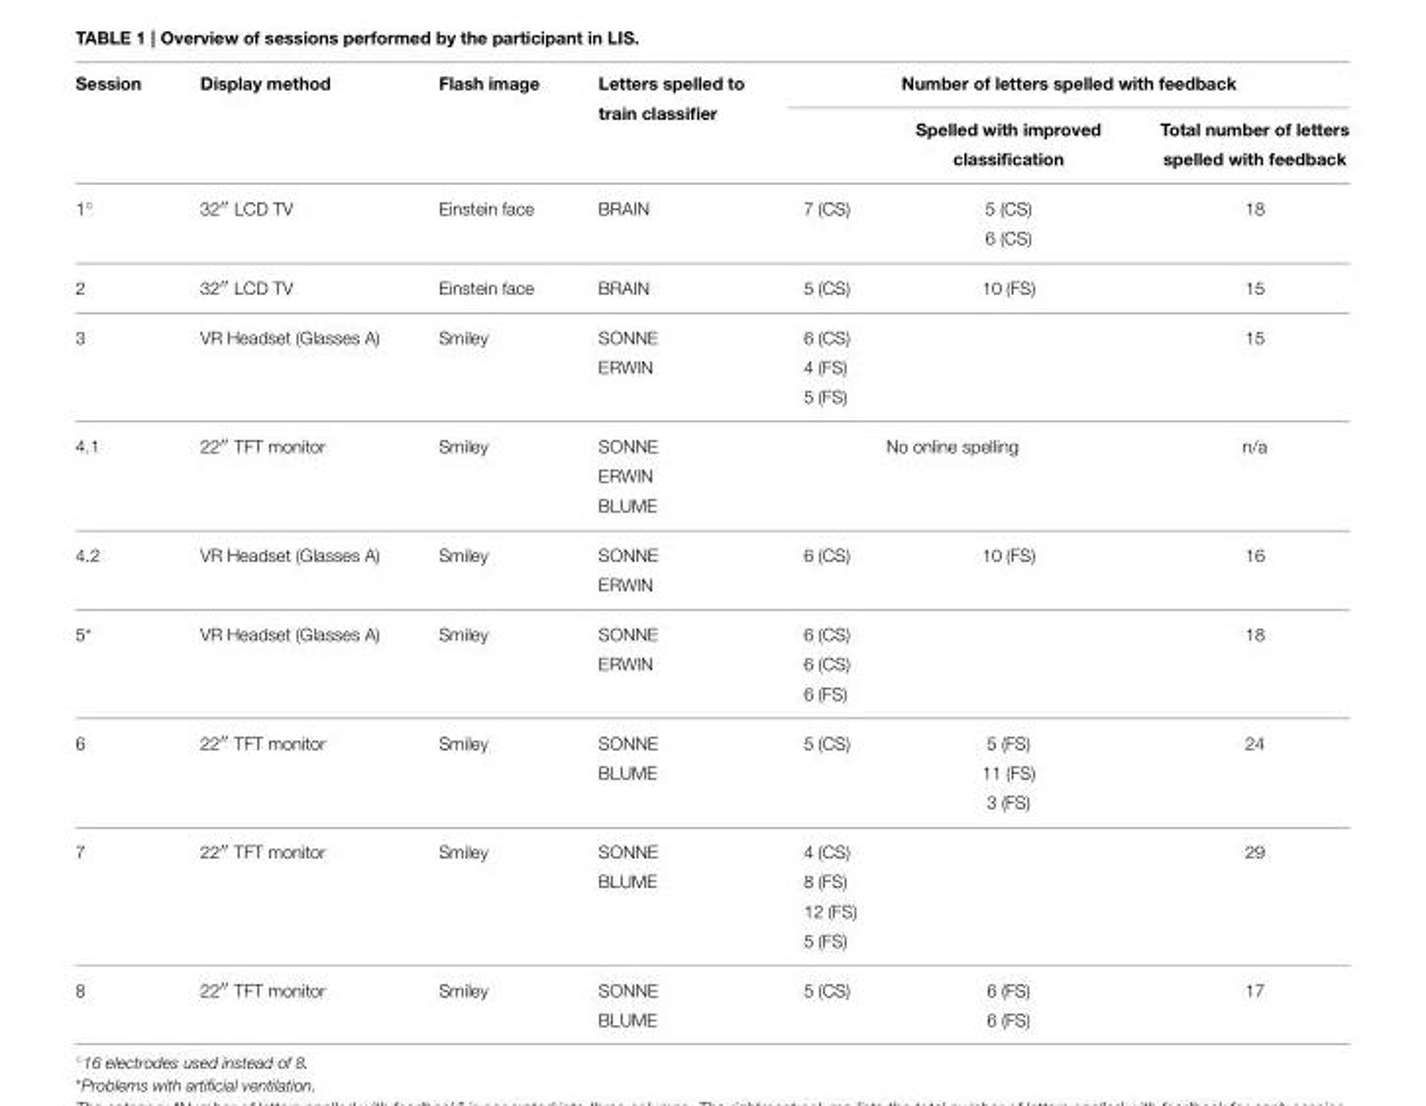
<table><thead><tr><td rowspan="2">Session</td><td rowspan="2">Display method</td><td rowspan="2">Flash image</td><td rowspan="2">Letters spelled to train classifier</td><td colspan="3">Number of letters spelled with feedback</td></tr><tr><td></td><td>Spelled with improved classification</td><td>Total number of letters spelled with feedback</td></tr></thead><tbody><tr><td rowspan="2">1<sup>◦</sup></td><td>32′′ LCD TV</td><td>Einstein face</td><td>BRAIN</td><td>7 (CS)</td><td>5 (CS)</td><td>18</td></tr><tr><td></td><td></td><td></td><td></td><td>6 (CS)</td><td></td></tr><tr><td>2</td><td>32′′ LCD TV</td><td>Einstein face</td><td>BRAIN</td><td>5 (CS)</td><td>10 (FS)</td><td>15</td></tr><tr><td rowspan="3">3</td><td>VR Headset (Glasses A)</td><td>Smiley</td><td>SONNE</td><td>6 (CS)</td><td></td><td>15</td></tr><tr><td></td><td></td><td>ERWIN</td><td>4 (FS)</td><td></td><td></td></tr><tr><td></td><td></td><td></td><td>5 (FS)</td><td></td><td></td></tr><tr><td rowspan="3">4.1</td><td>22′′ TFT monitor</td><td>Smiley</td><td>SONNE</td><td colspan="2">No online spelling</td><td>n/a</td></tr><tr><td></td><td></td><td>ERWIN</td><td></td><td></td><td></td></tr><tr><td></td><td></td><td>BLUME</td><td></td><td></td><td></td></tr><tr><td rowspan="2">4.2</td><td>VR Headset (Glasses A)</td><td>Smiley</td><td>SONNE</td><td>6 (CS)</td><td>10 (FS)</td><td>16</td></tr><tr><td></td><td></td><td>ERWIN</td><td></td><td></td><td></td></tr><tr><td rowspan="3">5*</td><td>VR Headset (Glasses A)</td><td>Smiley</td><td>SONNE</td><td>6 (CS)</td><td></td><td>18</td></tr><tr><td></td><td></td><td>ERWIN</td><td>6 (CS)</td><td></td><td></td></tr><tr><td></td><td></td><td></td><td>6 (FS)</td><td></td><td></td></tr><tr><td rowspan="3">6</td><td>22′′ TFT monitor</td><td>Smiley</td><td>SONNE</td><td>5 (CS)</td><td>5 (FS)</td><td>24</td></tr><tr><td></td><td></td><td>BLUME</td><td></td><td>11 (FS)</td><td></td></tr><tr><td></td><td></td><td></td><td></td><td>3 (FS)</td><td></td></tr><tr><td rowspan="4">7</td><td>22′′ TFT monitor</td><td>Smiley</td><td>SONNE</td><td>4 (CS)</td><td></td><td>29</td></tr><tr><td></td><td></td><td>BLUME</td><td>8 (FS)</td><td></td><td></td></tr><tr><td></td><td></td><td></td><td>12 (FS)</td><td></td><td></td></tr><tr><td></td><td></td><td></td><td>5 (FS)</td><td></td><td></td></tr><tr><td rowspan="2">8</td><td>22′′ TFT monitor</td><td>Smiley</td><td>SONNE</td><td>5 (CS)</td><td>6 (FS)</td><td>17</td></tr><tr><td></td><td></td><td>BLUME</td><td></td><td>6 (FS)</td><td></td></tr></tbody></table>